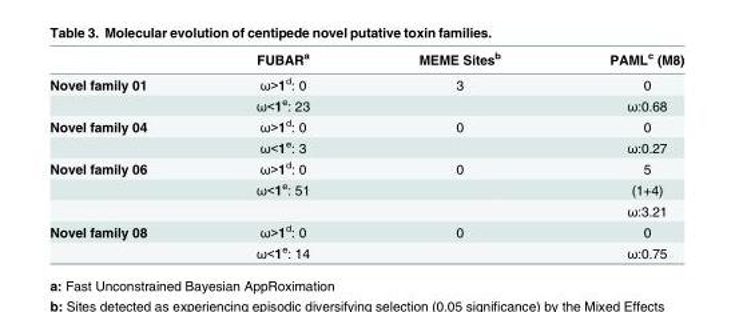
<table><thead><tr><td></td><td>FUBAR<sup>a</sup></td><td>MEME Sites<sup>b</sup></td><td>PAML<sup>c</sup> (M8)</td></tr></thead><tbody><tr><td rowspan="2">Novel family 01</td><td>ω&gt;1<sup>d</sup>: 0</td><td>3</td><td>0</td></tr><tr><td>ω&lt;1<sup>e</sup>: 23</td><td></td><td>ω:0.68</td></tr><tr><td rowspan="2">Novel family 04</td><td>ω&gt;1<sup>d</sup>: 0</td><td>0</td><td>0</td></tr><tr><td>ω&lt;1<sup>e</sup>: 3</td><td></td><td>ω:0.27</td></tr><tr><td rowspan="3">Novel family 06</td><td>ω&gt;1<sup>d</sup>: 0</td><td>0</td><td>5</td></tr><tr><td>ω&lt;1<sup>e</sup>: 51</td><td></td><td>(1+4)</td></tr><tr><td></td><td></td><td>ω:3.21</td></tr><tr><td rowspan="2">Novel family 08</td><td>ω&gt;1<sup>d</sup>: 0</td><td>0</td><td>0</td></tr><tr><td>ω&lt;1<sup>e</sup>: 14</td><td></td><td>ω:0.75</td></tr></tbody></table>